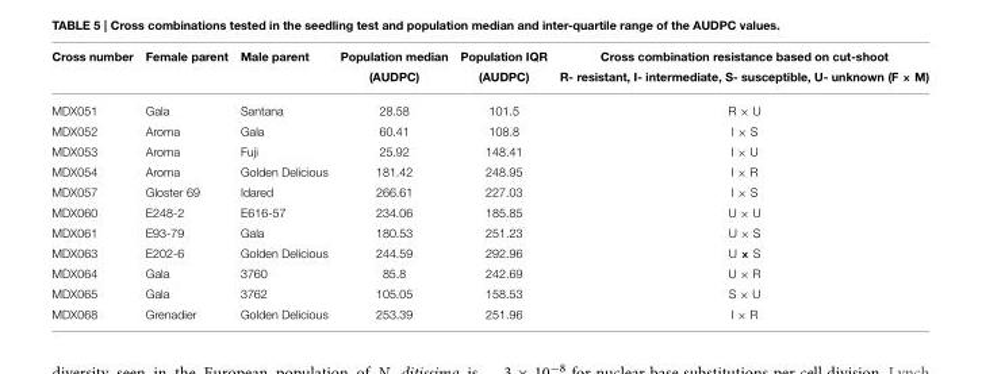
<table><thead><tr><td>Cross number</td><td>Female parent</td><td>Male parent</td><td>Population median (AUDPC)</td><td>Population IQR (AUDPC)</td><td>Cross combination resistance based on cut-shoot R- resistant, I- intermediate, S- susceptible, U- unknown (F × M)</td></tr></thead><tbody><tr><td>MDX051</td><td>Gala</td><td>Santana</td><td>28.58</td><td>101.5</td><td>R × U</td></tr><tr><td>MDX052</td><td>Aroma</td><td>Gala</td><td>60.41</td><td>108.8</td><td>I × S</td></tr><tr><td>MDX053</td><td>Aroma</td><td>Fuji</td><td>25.92</td><td>148.41</td><td>I × U</td></tr><tr><td>MDX054</td><td>Aroma</td><td>Golden Delicious</td><td>181.42</td><td>248.95</td><td>I × R</td></tr><tr><td>MDX057</td><td>Gloster 69</td><td>Idared</td><td>266.61</td><td>227.03</td><td>I × S</td></tr><tr><td>MDX060</td><td>E248-2</td><td>E616-57</td><td>234.06</td><td>185.85</td><td>U × U</td></tr><tr><td>MDX061</td><td>E93-79</td><td>Gala</td><td>180.53</td><td>251.23</td><td>U × S</td></tr><tr><td>MDX063</td><td>E202-6</td><td>Golden Delicious</td><td>244.59</td><td>292.96</td><td>U × S</td></tr><tr><td>MDX064</td><td>Gala</td><td>3760</td><td>85.8</td><td>242.69</td><td>U × R</td></tr><tr><td>MDX065</td><td>Gala</td><td>3762</td><td>105.05</td><td>158.53</td><td>S × U</td></tr><tr><td>MDX068</td><td>Grenadier</td><td>Golden Delicious</td><td>253.39</td><td>251.96</td><td>I × R</td></tr></tbody></table>